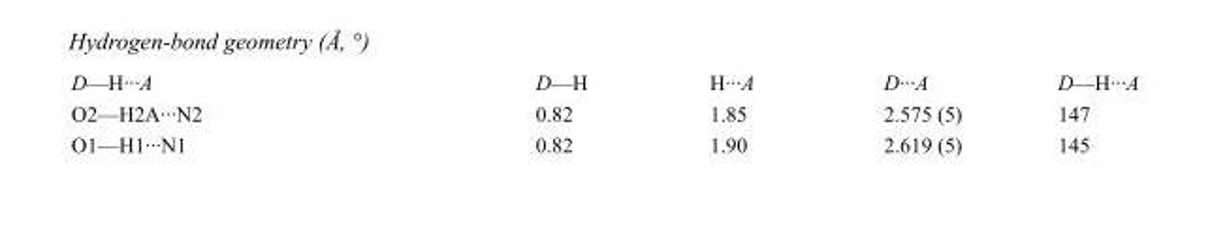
<table><tbody><tr><td>D—H···A</td><td>D—H</td><td>H···A</td><td>D···A</td><td>D—H···A</td></tr><tr><td>O2—H2A···N2</td><td>0.82</td><td>1.85</td><td>2.575 (5)</td><td>147</td></tr><tr><td>O1—H1···N1</td><td>0.82</td><td>1.90</td><td>2.619 (5)</td><td>145</td></tr></tbody></table>